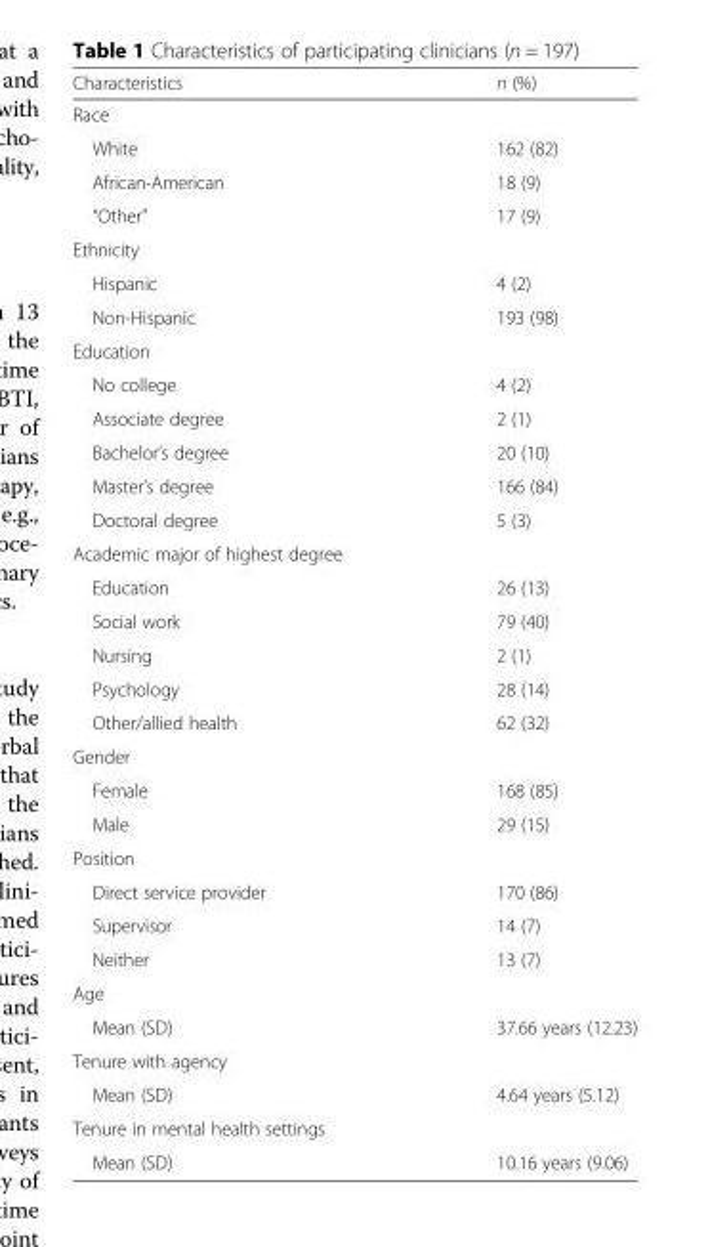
<table><thead><tr><td>Characteristics</td><td>n (%)</td></tr></thead><tbody><tr><td colspan="2">Race</td></tr><tr><td>White</td><td>162 (82)</td></tr><tr><td>African-American</td><td>18 (9)</td></tr><tr><td>“Other”</td><td>17 (9)</td></tr><tr><td colspan="2">Ethnicity</td></tr><tr><td>Hispanic</td><td>4 (2)</td></tr><tr><td>Non-Hispanic</td><td>193 (98)</td></tr><tr><td colspan="2">Education</td></tr><tr><td>No college</td><td>4 (2)</td></tr><tr><td>Associate degree</td><td>2 (1)</td></tr><tr><td>Bachelor’s degree</td><td>20 (10)</td></tr><tr><td>Master’s degree</td><td>166 (84)</td></tr><tr><td>Doctoral degree</td><td>5 (3)</td></tr><tr><td colspan="2">Academic major of highest degree</td></tr><tr><td>Education</td><td>26 (13)</td></tr><tr><td>Social work</td><td>79 (40)</td></tr><tr><td>Nursing</td><td>2 (1)</td></tr><tr><td>Psychology</td><td>28 (14)</td></tr><tr><td>Other/allied health</td><td>62 (32)</td></tr><tr><td colspan="2">Gender</td></tr><tr><td>Female</td><td>168 (85)</td></tr><tr><td>Male</td><td>29 (15)</td></tr><tr><td colspan="2">Position</td></tr><tr><td>Direct service provider</td><td>170 (86)</td></tr><tr><td>Supervisor</td><td>14 (7)</td></tr><tr><td>Neither</td><td>13 (7)</td></tr><tr><td colspan="2">Age</td></tr><tr><td>Mean (SD)</td><td>37.66 years (12.23)</td></tr><tr><td colspan="2">Tenure with agency</td></tr><tr><td>Mean (SD)</td><td>4.64 years (5.12)</td></tr><tr><td colspan="2">Tenure in mental health settings</td></tr><tr><td>Mean (SD)</td><td>10.16 years (9.06)</td></tr></tbody></table>